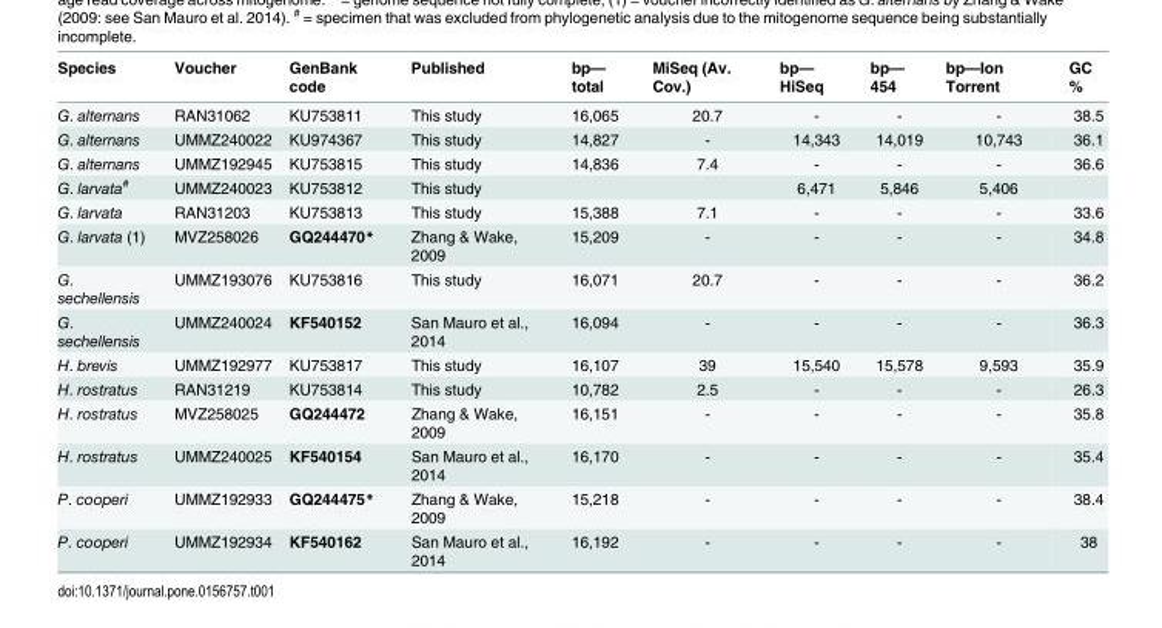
<table><thead><tr><td>Species</td><td>Voucher</td><td>GenBank code</td><td>Published</td><td>bp— total</td><td>MiSeq (Av. Cov.)</td><td>bp— HiSeq</td><td>bp— 454</td><td>bp—Ion Torrent</td><td>GC %</td></tr></thead><tbody><tr><td>G. alternans</td><td>RAN31062</td><td>KU753811</td><td>This study</td><td>16,065</td><td>20.7</td><td>-</td><td>-</td><td>-</td><td>38.5</td></tr><tr><td>G. alternans</td><td>UMMZ240022</td><td>KU974367</td><td>This study</td><td>14,827</td><td>-</td><td>14,343</td><td>14,019</td><td>10,743</td><td>36.1</td></tr><tr><td>G. alternans</td><td>UMMZ192945</td><td>KU753815</td><td>This study</td><td>14,836</td><td>7.4</td><td>-</td><td>-</td><td>-</td><td>36.6</td></tr><tr><td>G. larvata<sup>#</sup></td><td>UMMZ240023</td><td>KU753812</td><td>This study</td><td></td><td></td><td>6,471</td><td>5,846</td><td>5,406</td><td></td></tr><tr><td>G. larvata</td><td>RAN31203</td><td>KU753813</td><td>This study</td><td>15,388</td><td>7.1</td><td>-</td><td>-</td><td>-</td><td>33.6</td></tr><tr><td>G. larvata (1)</td><td>MVZ258026</td><td>GQ244470*</td><td>Zhang &amp; Wake, 2009</td><td>15,209</td><td>-</td><td>-</td><td>-</td><td>-</td><td>34.8</td></tr><tr><td>G. sechellensis</td><td>UMMZ193076</td><td>KU753816</td><td>This study</td><td>16,071</td><td>20.7</td><td>-</td><td>-</td><td>-</td><td>36.2</td></tr><tr><td>G. sechellensis</td><td>UMMZ240024</td><td>KF540152</td><td>San Mauro et al., 2014</td><td>16,094</td><td>-</td><td>-</td><td>-</td><td>-</td><td>36.3</td></tr><tr><td>H. brevis</td><td>UMMZ192977</td><td>KU753817</td><td>This study</td><td>16,107</td><td>39</td><td>15,540</td><td>15,578</td><td>9,593</td><td>35.9</td></tr><tr><td>H. rostratus</td><td>RAN31219</td><td>KU753814</td><td>This study</td><td>10,782</td><td>2.5</td><td>-</td><td>-</td><td>-</td><td>26.3</td></tr><tr><td>H. rostratus</td><td>MVZ258025</td><td>GQ244472</td><td>Zhang &amp; Wake, 2009</td><td>16,151</td><td>-</td><td>-</td><td>-</td><td>-</td><td>35.8</td></tr><tr><td>H. rostratus</td><td>UMMZ240025</td><td>KF540154</td><td>San Mauro et al., 2014</td><td>16,170</td><td>-</td><td>-</td><td>-</td><td>-</td><td>35.4</td></tr><tr><td>P. cooperi</td><td>UMMZ192933</td><td>GQ244475*</td><td>Zhang &amp; Wake, 2009</td><td>15,218</td><td>-</td><td>-</td><td>-</td><td>-</td><td>38.4</td></tr><tr><td>P. cooperi</td><td>UMMZ192934</td><td>KF540162</td><td>San Mauro et al., 2014</td><td>16,192</td><td>-</td><td>-</td><td>-</td><td>-</td><td>38</td></tr></tbody></table>